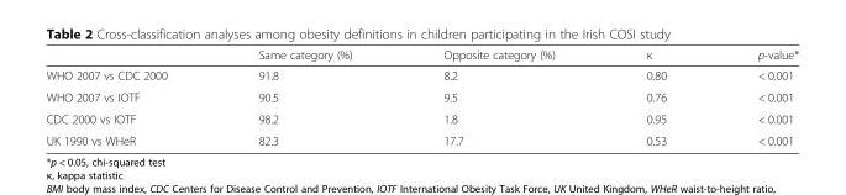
<table><thead><tr><td></td><td>Same category (%)</td><td>Opposite category (%)</td><td>κ</td><td>p-value*</td></tr></thead><tbody><tr><td>WHO 2007 vs CDC 2000</td><td>91.8</td><td>8.2</td><td>0.80</td><td>&lt; 0.001</td></tr><tr><td>WHO 2007 vs IOTF</td><td>90.5</td><td>9.5</td><td>0.76</td><td>&lt; 0.001</td></tr><tr><td>CDC 2000 vs IOTF</td><td>98.2</td><td>1.8</td><td>0.95</td><td>&lt; 0.001</td></tr><tr><td>UK 1990 vs WHeR</td><td>82.3</td><td>17.7</td><td>0.53</td><td>&lt; 0.001</td></tr></tbody></table>